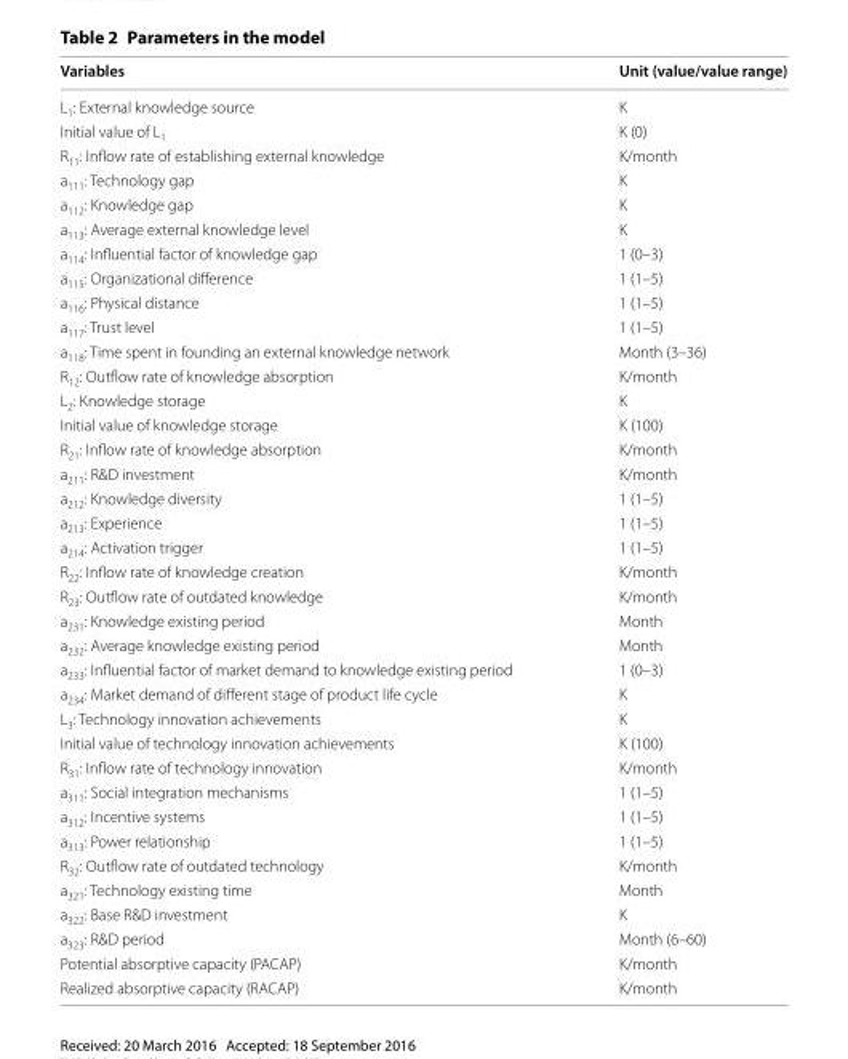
<table><thead><tr><td>Variables</td><td>Unit (value/value range)</td></tr></thead><tbody><tr><td>L<sub>1</sub>: External knowledge source</td><td>K</td></tr><tr><td>Initial value of L<sub>1</sub></td><td>K (0)</td></tr><tr><td>R<sub>11</sub>: Inflow rate of establishing external knowledge</td><td>K/month</td></tr><tr><td>a<sub>111</sub>: Technology gap</td><td>K</td></tr><tr><td>a<sub>112</sub>: Knowledge gap</td><td>K</td></tr><tr><td>a<sub>113</sub>: Average external knowledge level</td><td>K</td></tr><tr><td>a<sub>114</sub>: Influential factor of knowledge gap</td><td>1 (0–3)</td></tr><tr><td>a<sub>115</sub>: Organizational difference</td><td>1 (1–5)</td></tr><tr><td>a<sub>116</sub>: Physical distance</td><td>1 (1–5)</td></tr><tr><td>a<sub>117</sub>: Trust level</td><td>1 (1–5)</td></tr><tr><td>a<sub>118</sub>: Time spent in founding an external knowledge network</td><td>Month (3–36)</td></tr><tr><td>R<sub>12</sub>: Outflow rate of knowledge absorption</td><td>K/month</td></tr><tr><td>L<sub>2</sub>: Knowledge storage</td><td>K</td></tr><tr><td>Initial value of knowledge storage</td><td>K (100)</td></tr><tr><td>R<sub>21</sub>: Inflow rate of knowledge absorption</td><td>K/month</td></tr><tr><td>a<sub>211</sub>: R&amp;D investment</td><td>K/month</td></tr><tr><td>a<sub>212</sub>: Knowledge diversity</td><td>1 (1–5)</td></tr><tr><td>a<sub>213</sub>: Experience</td><td>1 (1–5)</td></tr><tr><td>a<sub>214</sub>: Activation trigger</td><td>1 (1–5)</td></tr><tr><td>R<sub>22</sub>: Inflow rate of knowledge creation</td><td>K/month</td></tr><tr><td>R<sub>23</sub>: Outflow rate of outdated knowledge</td><td>K/month</td></tr><tr><td>a<sub>231</sub>: Knowledge existing period</td><td>Month</td></tr><tr><td>a<sub>232</sub>: Average knowledge existing period</td><td>Month</td></tr><tr><td>a<sub>233</sub>: Influential factor of market demand to knowledge existing period</td><td>1 (0–3)</td></tr><tr><td>a<sub>234</sub>: Market demand of different stage of product life cycle</td><td>K</td></tr><tr><td>L<sub>3</sub>: Technology innovation achievements</td><td>K</td></tr><tr><td>Initial value of technology innovation achievements</td><td>K (100)</td></tr><tr><td>R<sub>31</sub>: Inflow rate of technology innovation</td><td>K/month</td></tr><tr><td>a<sub>311</sub>: Social integration mechanisms</td><td>1 (1–5)</td></tr><tr><td>a<sub>312</sub>: Incentive systems</td><td>1 (1–5)</td></tr><tr><td>a<sub>313</sub>: Power relationship</td><td>1 (1–5)</td></tr><tr><td>R<sub>32</sub>: Outflow rate of outdated technology</td><td>K/month</td></tr><tr><td>a<sub>321</sub>: Technology existing time</td><td>Month</td></tr><tr><td>a<sub>322</sub>: Base R&amp;D investment</td><td>K</td></tr><tr><td>a<sub>323</sub>: R&amp;D period</td><td>Month (6–60)</td></tr><tr><td>Potential absorptive capacity (PACAP)</td><td>K/month</td></tr><tr><td>Realized absorptive capacity (RACAP)</td><td>K/month</td></tr></tbody></table>